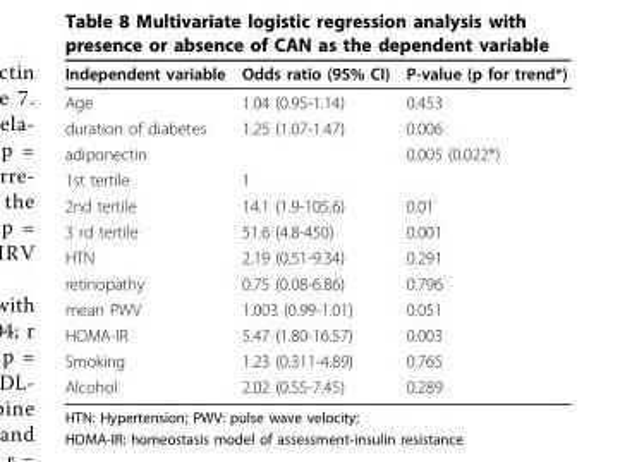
<table><thead><tr><td>Independent variable</td><td>Odds ratio (95% CI)</td><td>P-value (p for trend*)</td></tr></thead><tbody><tr><td>Age</td><td>1.04 (0.95-1.14)</td><td>0.453</td></tr><tr><td>duration of diabetes</td><td>1.25 (1.07-1.47)</td><td>0.006</td></tr><tr><td>adiponectin</td><td></td><td>0.005 (0.022*)</td></tr><tr><td>1st tertile</td><td>1</td><td></td></tr><tr><td>2nd tertile</td><td>14.1 (1.9-105.6)</td><td>0.01</td></tr><tr><td>3 rd tertile</td><td>51.6 (4.8-450)</td><td>0.001</td></tr><tr><td>HTN</td><td>2.19 (0.51-9.34)</td><td>0.291</td></tr><tr><td>retinopathy</td><td>0.75 (0.08-6.86)</td><td>0.796</td></tr><tr><td>mean PWV</td><td>1.003 (0.99-1.01)</td><td>0.051</td></tr><tr><td>HOMA-IR</td><td>5.47 (1.80-16.57)</td><td>0.003</td></tr><tr><td>Smoking</td><td>1.23 (0.311-4.89)</td><td>0.765</td></tr><tr><td>Alcohol</td><td>2.02 (0.55-7.45)</td><td>0.289</td></tr></tbody></table>